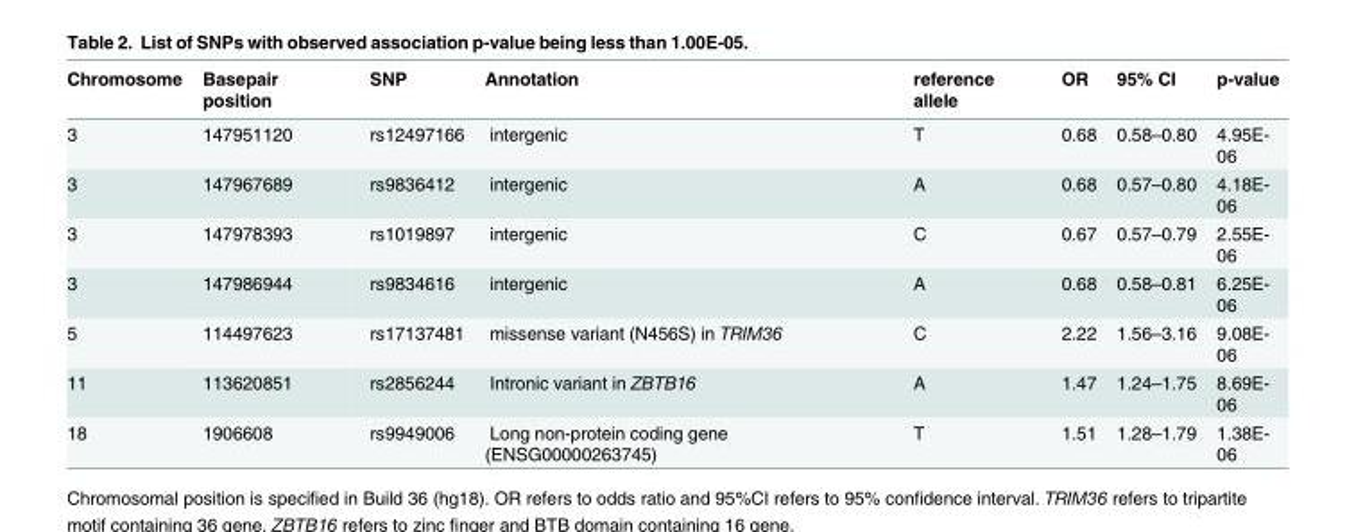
<table><thead><tr><td>Chromosome</td><td>Basepair position</td><td>SNP</td><td>Annotation</td><td>reference allele</td><td>OR</td><td>95% CI</td><td>p-value</td></tr></thead><tbody><tr><td>3</td><td>147951120</td><td>rs12497166</td><td>intergenic</td><td>T</td><td>0.68</td><td>0.58–0.80</td><td>4.95E- 06</td></tr><tr><td>3</td><td>147967689</td><td>rs9836412</td><td>intergenic</td><td>A</td><td>0.68</td><td>0.57–0.80</td><td>4.18E- 06</td></tr><tr><td>3</td><td>147978393</td><td>rs1019897</td><td>intergenic</td><td>C</td><td>0.67</td><td>0.57–0.79</td><td>2.55E- 06</td></tr><tr><td>3</td><td>147986944</td><td>rs9834616</td><td>intergenic</td><td>A</td><td>0.68</td><td>0.58–0.81</td><td>6.25E- 06</td></tr><tr><td>5</td><td>114497623</td><td>rs17137481</td><td>missense variant (N456S) in TRIM36</td><td>C</td><td>2.22</td><td>1.56–3.16</td><td>9.08E- 06</td></tr><tr><td>11</td><td>113620851</td><td>rs2856244</td><td>Intronic variant in ZBTB16</td><td>A</td><td>1.47</td><td>1.24–1.75</td><td>8.69E- 06</td></tr><tr><td>18</td><td>1906608</td><td>rs9949006</td><td>Long non-protein coding gene (ENSG00000263745)</td><td>T</td><td>1.51</td><td>1.28–1.79</td><td>1.38E- 06</td></tr></tbody></table>